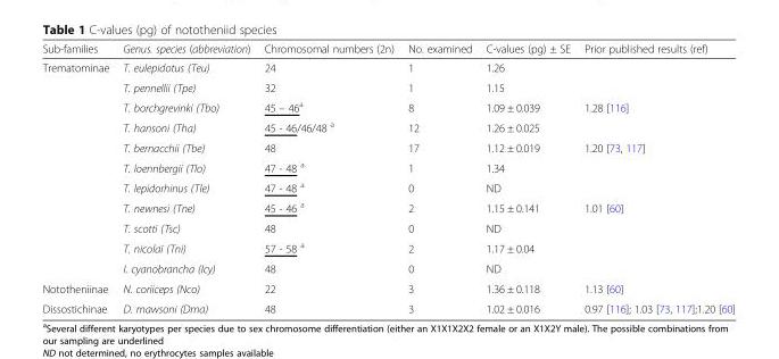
<table><thead><tr><td>Sub-families</td><td>Genus. species (abbreviation)</td><td>Chromosomal numbers (2n)</td><td>No. examined</td><td>C-values (pg) ± SE</td><td>Prior published results (ref)</td></tr></thead><tbody><tr><td rowspan="11">Trematominae</td><td>T. eulepidotus (Teu)</td><td>24</td><td>1</td><td>1.26</td><td></td></tr><tr><td>T. pennellii (Tpe)</td><td>32</td><td>1</td><td>1.15</td><td></td></tr><tr><td>T. borchgrevinki (Tbo)</td><td>45 – 46<sup>a</sup></td><td>8</td><td>1.09 ± 0.039</td><td>1.28 [116]</td></tr><tr><td>T. hansoni (Tha)</td><td>45 - 46/46/48 <sup>a</sup></td><td>12</td><td>1.26 ± 0.025</td><td></td></tr><tr><td>T. bernacchii (Tbe)</td><td>48</td><td>17</td><td>1.12 ± 0.019</td><td>1.20 [73, 117]</td></tr><tr><td>T. loennbergii (Tlo)</td><td>47 - 48 <sup>a</sup></td><td>1</td><td>1.34</td><td></td></tr><tr><td>T. lepidorhinus (Tle)</td><td>47 - 48 <sup>a</sup></td><td>0</td><td>ND</td><td></td></tr><tr><td>T. newnesi (Tne)</td><td>45 - 46 <sup>a</sup></td><td>2</td><td>1.15 ± 0.141</td><td>1.01 [60]</td></tr><tr><td>T. scotti (Tsc)</td><td>48</td><td>0</td><td>ND</td><td></td></tr><tr><td>T. nicolaï (Tni)</td><td>57 - 58 <sup>a</sup></td><td>2</td><td>1.17 ± 0.04</td><td></td></tr><tr><td>I. cyanobrancha (Icy)</td><td>48</td><td>0</td><td>ND</td><td></td></tr><tr><td>Nototheniinae</td><td>N. coriiceps (Nco)</td><td>22</td><td>3</td><td>1.36 ± 0.118</td><td>1.13 [60]</td></tr><tr><td>Dissostichinae</td><td>D. mawsoni (Dma)</td><td>48</td><td>3</td><td>1.02 ± 0.016</td><td>0.97 [116]; 1.03 [73, 117];1.20 [60]</td></tr></tbody></table>